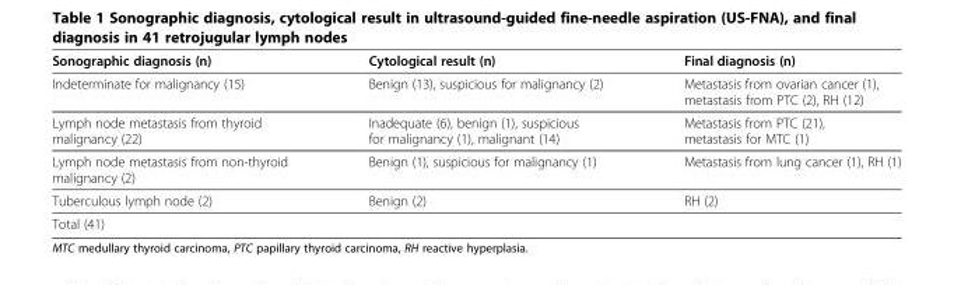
<table><thead><tr><td>Sonographic diagnosis (n)</td><td>Cytological result (n)</td><td>Final diagnosis (n)</td></tr></thead><tbody><tr><td>Indeterminate for malignancy (15)</td><td>Benign (13), suspicious for malignancy (2)</td><td>Metastasis from ovarian cancer (1), metastasis from PTC (2), RH (12)</td></tr><tr><td>Lymph node metastasis from thyroid malignancy (22)</td><td>Inadequate (6), benign (1), suspicious for malignancy (1), malignant (14)</td><td>Metastasis from PTC (21), metastasis for MTC (1)</td></tr><tr><td>Lymph node metastasis from non-thyroid malignancy (2)</td><td>Benign (1), suspicious for malignancy (1)</td><td>Metastasis from lung cancer (1), RH (1)</td></tr><tr><td>Tuberculous lymph node (2)</td><td>Benign (2)</td><td>RH (2)</td></tr><tr><td colspan="2">Total (41)</td><td></td></tr></tbody></table>